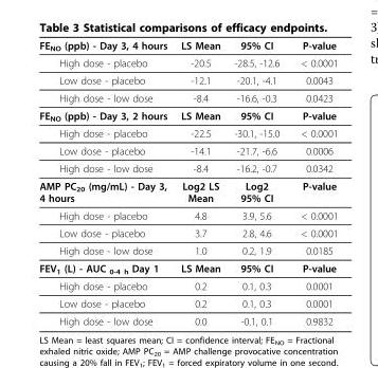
<table><thead><tr><td>FE<sub>NO</sub> (ppb) - Day 3, 4 hours</td><td>LS Mean</td><td>95% CI</td><td>P-value</td></tr></thead><tbody><tr><td>High dose - placebo</td><td>-20.5</td><td>-28.5, -12.6</td><td>&lt; 0.0001</td></tr><tr><td>Low dose - placebo</td><td>-12.1</td><td>-20.1, -4.1</td><td>0.0043</td></tr><tr><td>High dose - low dose</td><td>-8.4</td><td>-16.6, -0.3</td><td>0.0423</td></tr><tr><td>FE<sub>NO</sub> (ppb) - Day 3, 2 hours</td><td>LS Mean</td><td>95% CI</td><td>P-value</td></tr><tr><td>High dose - placebo</td><td>-22.5</td><td>-30.1, -15.0</td><td>&lt; 0.0001</td></tr><tr><td>Low dose - placebo</td><td>-14.1</td><td>-21.7, -6.6</td><td>0.0006</td></tr><tr><td>High dose - low dose</td><td>-8.4</td><td>-16.2, -0.7</td><td>0.0342</td></tr><tr><td>AMP PC<sub>20</sub> (mg/mL) - Day 3, 4 hours</td><td>Log2 LS Mean</td><td>Log2 95% CI</td><td>P-value</td></tr><tr><td>High dose - placebo</td><td>4.8</td><td>3.9, 5.6</td><td>&lt; 0.0001</td></tr><tr><td>Low dose - placebo</td><td>3.7</td><td>2.8, 4.6</td><td>&lt; 0.0001</td></tr><tr><td>High dose - low dose</td><td>1.0</td><td>0.2, 1.9</td><td>0.0185</td></tr><tr><td>FEV<sub>1</sub> (L) - AUC <sub>0-4 h</sub> Day 1</td><td>LS Mean</td><td>95% CI</td><td>P-value</td></tr><tr><td>High dose - placebo</td><td>0.2</td><td>0.1, 0.3</td><td>0.0001</td></tr><tr><td>Low dose - placebo</td><td>0.2</td><td>0.1, 0.3</td><td>0.0001</td></tr><tr><td>High dose - low dose</td><td>0.0</td><td>-0.1, 0.1</td><td>0.9832</td></tr></tbody></table>